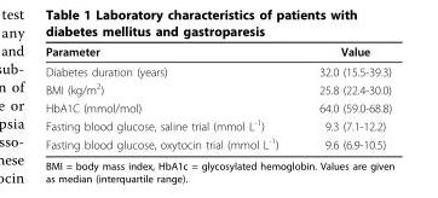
<table><thead><tr><td>Parameter</td><td>Value</td></tr></thead><tbody><tr><td>Diabetes duration (years)</td><td>32.0 (15.5-39.3)</td></tr><tr><td>BMI (kg/m<sup>2</sup>)</td><td>25.8 (22.4-30.0)</td></tr><tr><td>HbA1C (mmol/mol)</td><td>64.0 (59.0-68.8)</td></tr><tr><td>Fasting blood glucose, saline trial (mmol L<sup>-1</sup>)</td><td>9.3 (7.1-12.2)</td></tr><tr><td>Fasting blood glucose, oxytocin trial (mmol L<sup>-1</sup>)</td><td>9.6 (6.9-10.5)</td></tr></tbody></table>